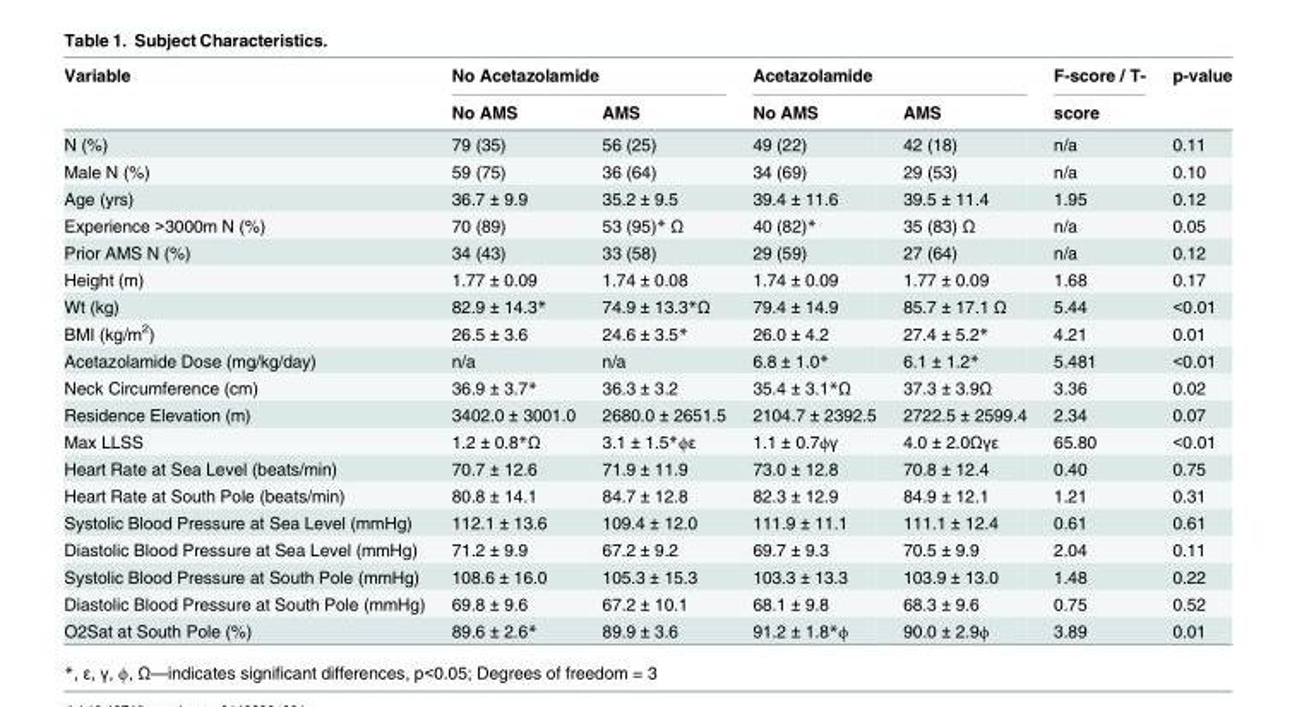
<table><thead><tr><td rowspan="2">Variable</td><td colspan="2">No Acetazolamide</td><td colspan="2">Acetazolamide</td><td rowspan="2">F-score / T- score</td><td rowspan="2">p-value</td></tr><tr><td>No AMS</td><td>AMS</td><td>No AMS</td><td>AMS</td></tr></thead><tbody><tr><td>N (%)</td><td>79 (35)</td><td>56 (25)</td><td>49 (22)</td><td>42 (18)</td><td>n/a</td><td>0.11</td></tr><tr><td>Male N (%)</td><td>59 (75)</td><td>36 (64)</td><td>34 (69)</td><td>29 (53)</td><td>n/a</td><td>0.10</td></tr><tr><td>Age (yrs)</td><td>36.7 ± 9.9</td><td>35.2 ± 9.5</td><td>39.4 ± 11.6</td><td>39.5 ± 11.4</td><td>1.95</td><td>0.12</td></tr><tr><td>Experience &gt;3000m N (%)</td><td>70 (89)</td><td>53 (95)* Ω</td><td>40 (82)*</td><td>35 (83) Ω</td><td>n/a</td><td>0.05</td></tr><tr><td>Prior AMS N (%)</td><td>34 (43)</td><td>33 (58)</td><td>29 (59)</td><td>27 (64)</td><td>n/a</td><td>0.12</td></tr><tr><td>Height (m)</td><td>1.77 ± 0.09</td><td>1.74 ± 0.08</td><td>1.74 ± 0.09</td><td>1.77 ± 0.09</td><td>1.68</td><td>0.17</td></tr><tr><td>Wt (kg)</td><td>82.9 ± 14.3*</td><td>74.9 ± 13.3*Ω</td><td>79.4 ± 14.9</td><td>85.7 ± 17.1 Ω</td><td>5.44</td><td>&lt;0.01</td></tr><tr><td>BMI (kg/m<sup>2</sup>)</td><td>26.5 ± 3.6</td><td>24.6 ± 3.5*</td><td>26.0 ± 4.2</td><td>27.4 ± 5.2*</td><td>4.21</td><td>0.01</td></tr><tr><td>Acetazolamide Dose (mg/kg/day)</td><td>n/a</td><td>n/a</td><td>6.8 ± 1.0*</td><td>6.1 ± 1.2*</td><td>5.481</td><td>&lt;0.01</td></tr><tr><td>Neck Circumference (cm)</td><td>36.9 ± 3.7*</td><td>36.3 ± 3.2</td><td>35.4 ± 3.1*Ω</td><td>37.3 ± 3.9Ω</td><td>3.36</td><td>0.02</td></tr><tr><td>Residence Elevation (m)</td><td>3402.0 ± 3001.0</td><td>2680.0 ± 2651.5</td><td>2104.7 ± 2392.5</td><td>2722.5 ± 2599.4</td><td>2.34</td><td>0.07</td></tr><tr><td>Max LLSS</td><td>1.2 ± 0.8*Ω</td><td>3.1 ± 1.5*ϕε</td><td>1.1 ± 0.7ϕγ</td><td>4.0 ± 2.0Ωγε</td><td>65.80</td><td>&lt;0.01</td></tr><tr><td>Heart Rate at Sea Level (beats/min)</td><td>70.7 ± 12.6</td><td>71.9 ± 11.9</td><td>73.0 ± 12.8</td><td>70.8 ± 12.4</td><td>0.40</td><td>0.75</td></tr><tr><td>Heart Rate at South Pole (beats/min)</td><td>80.8 ± 14.1</td><td>84.7 ± 12.8</td><td>82.3 ± 12.9</td><td>84.9 ± 12.1</td><td>1.21</td><td>0.31</td></tr><tr><td>Systolic Blood Pressure at Sea Level (mmHg)</td><td>112.1 ± 13.6</td><td>109.4 ± 12.0</td><td>111.9 ± 11.1</td><td>111.1 ± 12.4</td><td>0.61</td><td>0.61</td></tr><tr><td>Diastolic Blood Pressure at Sea Level (mmHg)</td><td>71.2 ± 9.9</td><td>67.2 ± 9.2</td><td>69.7 ± 9.3</td><td>70.5 ± 9.9</td><td>2.04</td><td>0.11</td></tr><tr><td>Systolic Blood Pressure at South Pole (mmHg)</td><td>108.6 ± 16.0</td><td>105.3 ± 15.3</td><td>103.3 ± 13.3</td><td>103.9 ± 13.0</td><td>1.48</td><td>0.22</td></tr><tr><td>Diastolic Blood Pressure at South Pole (mmHg)</td><td>69.8 ± 9.6</td><td>67.2 ± 10.1</td><td>68.1 ± 9.8</td><td>68.3 ± 9.6</td><td>0.75</td><td>0.52</td></tr><tr><td>O2Sat at South Pole (%)</td><td>89.6 ± 2.6*</td><td>89.9 ± 3.6</td><td>91.2 ± 1.8*ϕ</td><td>90.0 ± 2.9ϕ</td><td>3.89</td><td>0.01</td></tr></tbody></table>